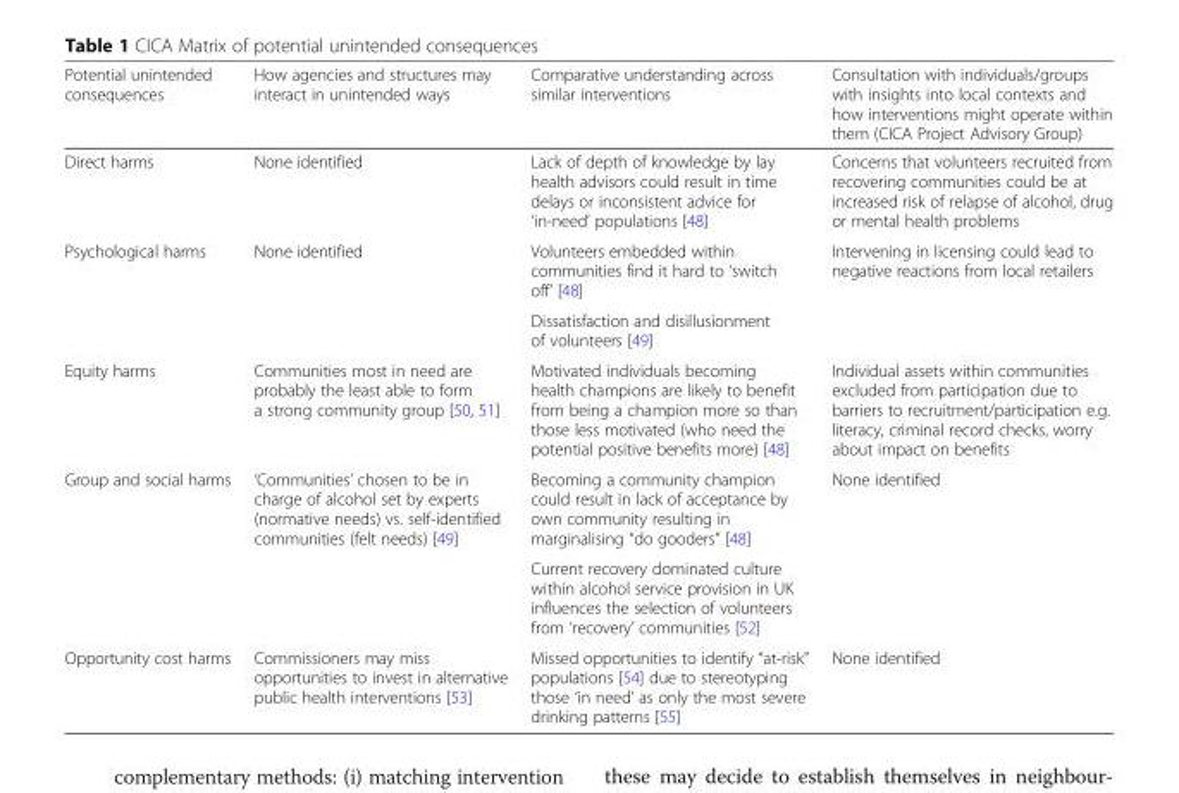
<table><thead><tr><td>Potential unintended consequences</td><td>How agencies and structures may interact in unintended ways</td><td>Comparative understanding across similar interventions</td><td>Consultation with individuals/groups with insights into local contexts and how interventions might operate within them (CICA Project Advisory Group)</td></tr></thead><tbody><tr><td>Direct harms</td><td>None identified</td><td>Lack of depth of knowledge by lay health advisors could result in time delays or inconsistent advice for ‘in-need’ populations [48]</td><td>Concerns that volunteers recruited from recovering communities could be at increased risk of relapse of alcohol, drug or mental health problems</td></tr><tr><td rowspan="2">Psychological harms</td><td rowspan="2">None identified</td><td>Volunteers embedded within communities find it hard to ‘switch off’ [48]</td><td rowspan="2">Intervening in licensing could lead to negative reactions from local retailers</td></tr><tr><td>Dissatisfaction and disillusionment of volunteers [49]</td></tr><tr><td>Equity harms</td><td>Communities most in need are probably the least able to form a strong community group [50, 51]</td><td>Motivated individuals becoming health champions are likely to benefit from being a champion more so than those less motivated (who need the potential positive benefits more) [48]</td><td>Individual assets within communities excluded from participation due to barriers to recruitment/participation e.g. literacy, criminal record checks, worry about impact on benefits</td></tr><tr><td rowspan="2">Group and social harms</td><td rowspan="2">‘Communities’ chosen to be in charge of alcohol set by experts (normative needs) vs. self-identified communities (felt needs) [49]</td><td>Becoming a community champion could result in lack of acceptance by own community resulting in marginalising “do gooders” [48]</td><td rowspan="2">None identified</td></tr><tr><td>Current recovery dominated culture within alcohol service provision in UK influences the selection of volunteers from ‘recovery’ communities [52]</td></tr><tr><td>Opportunity cost harms</td><td>Commissioners may miss opportunities to invest in alternative public health interventions [53]</td><td>Missed opportunities to identify “at-risk” populations [54] due to stereotyping those ‘in need’ as only the most severe drinking patterns [55]</td><td>None identified</td></tr></tbody></table>